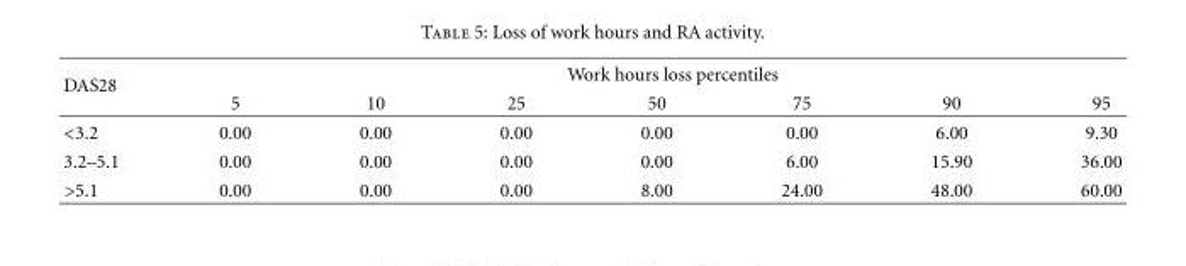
<table><thead><tr><td rowspan="2">DAS28</td><td colspan="7">Work hours loss percentiles</td></tr><tr><td>5</td><td>10</td><td>25</td><td>50</td><td>75</td><td>90</td><td>95</td></tr></thead><tbody><tr><td>&lt;3.2</td><td>0.00</td><td>0.00</td><td>0.00</td><td>0.00</td><td>0.00</td><td>6.00</td><td>9.30</td></tr><tr><td>3.2–5.1</td><td>0.00</td><td>0.00</td><td>0.00</td><td>0.00</td><td>6.00</td><td>15.90</td><td>36.00</td></tr><tr><td>&gt;5.1</td><td>0.00</td><td>0.00</td><td>0.00</td><td>8.00</td><td>24.00</td><td>48.00</td><td>60.00</td></tr></tbody></table>